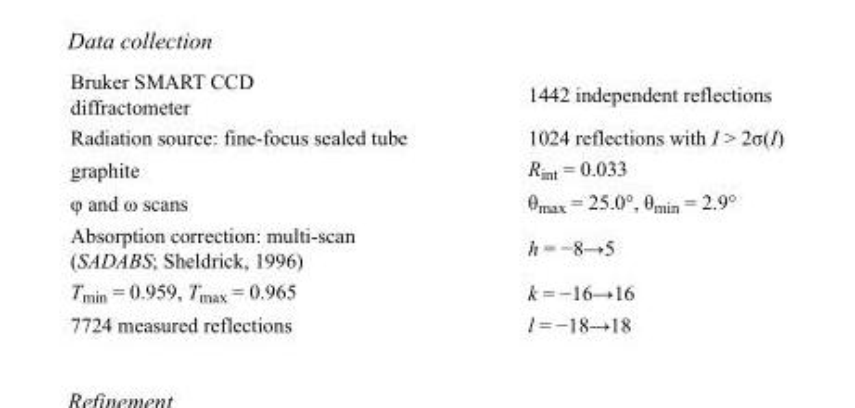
<table><tbody><tr><td>Bruker SMART CCD diffractometer</td><td>1442 independent reflections</td></tr><tr><td>Radiation source: fine-focus sealed tube</td><td>1024 reflections with I &gt; 2σ(I)</td></tr><tr><td>graphite</td><td>R<sub>int</sub> = 0.033</td></tr><tr><td>φ and ω scans</td><td>θ<sub>max</sub> = 25.0°, θ<sub>min</sub> = 2.9°</td></tr><tr><td>Absorption correction: multi-scan (SADABS; Sheldrick, 1996)</td><td>h = −8→5</td></tr><tr><td>T<sub>min</sub> = 0.959, T<sub>max</sub> = 0.965</td><td>k = −16→16</td></tr><tr><td>7724 measured reflections</td><td>l = −18→18</td></tr></tbody></table>